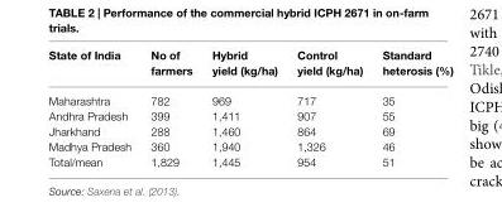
<table><thead><tr><td>State of India</td><td>No of farmers</td><td>Hybrid yield (kg/ha)</td><td>Control yield (kg/ha)</td><td>Standard heterosis (%)</td></tr></thead><tbody><tr><td>Maharashtra</td><td>782</td><td>969</td><td>717</td><td>35</td></tr><tr><td>Andhra Pradesh</td><td>399</td><td>1,411</td><td>907</td><td>55</td></tr><tr><td>Jharkhand</td><td>288</td><td>1,460</td><td>864</td><td>69</td></tr><tr><td>Madhya Pradesh</td><td>360</td><td>1,940</td><td>1,326</td><td>46</td></tr><tr><td>Total/mean</td><td>1,829</td><td>1,445</td><td>954</td><td>51</td></tr></tbody></table>